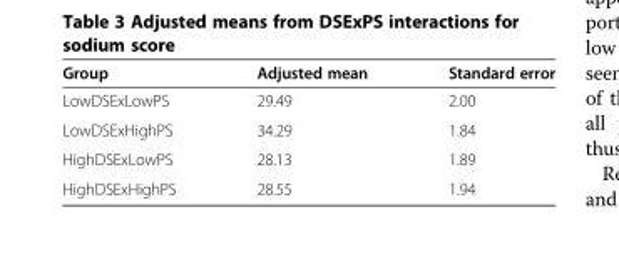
<table><thead><tr><td>Group</td><td>Adjusted mean</td><td>Standard error</td></tr></thead><tbody><tr><td>LowDSExLowPS</td><td>29.49</td><td>2.00</td></tr><tr><td>LowDSExHighPS</td><td>34.29</td><td>1.84</td></tr><tr><td>HighDSExLowPS</td><td>28.13</td><td>1.89</td></tr><tr><td>HighDSExHighPS</td><td>28.55</td><td>1.94</td></tr></tbody></table>